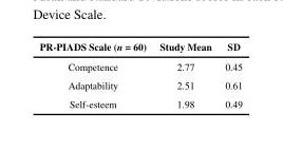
<table><thead><tr><td>PR-PIADS Scale (n = 60)</td><td>Study Mean</td><td>SD</td></tr></thead><tbody><tr><td>Competence</td><td>2.77</td><td>0.45</td></tr><tr><td>Adaptability</td><td>2.51</td><td>0.61</td></tr><tr><td>Self-esteem</td><td>1.98</td><td>0.49</td></tr></tbody></table>